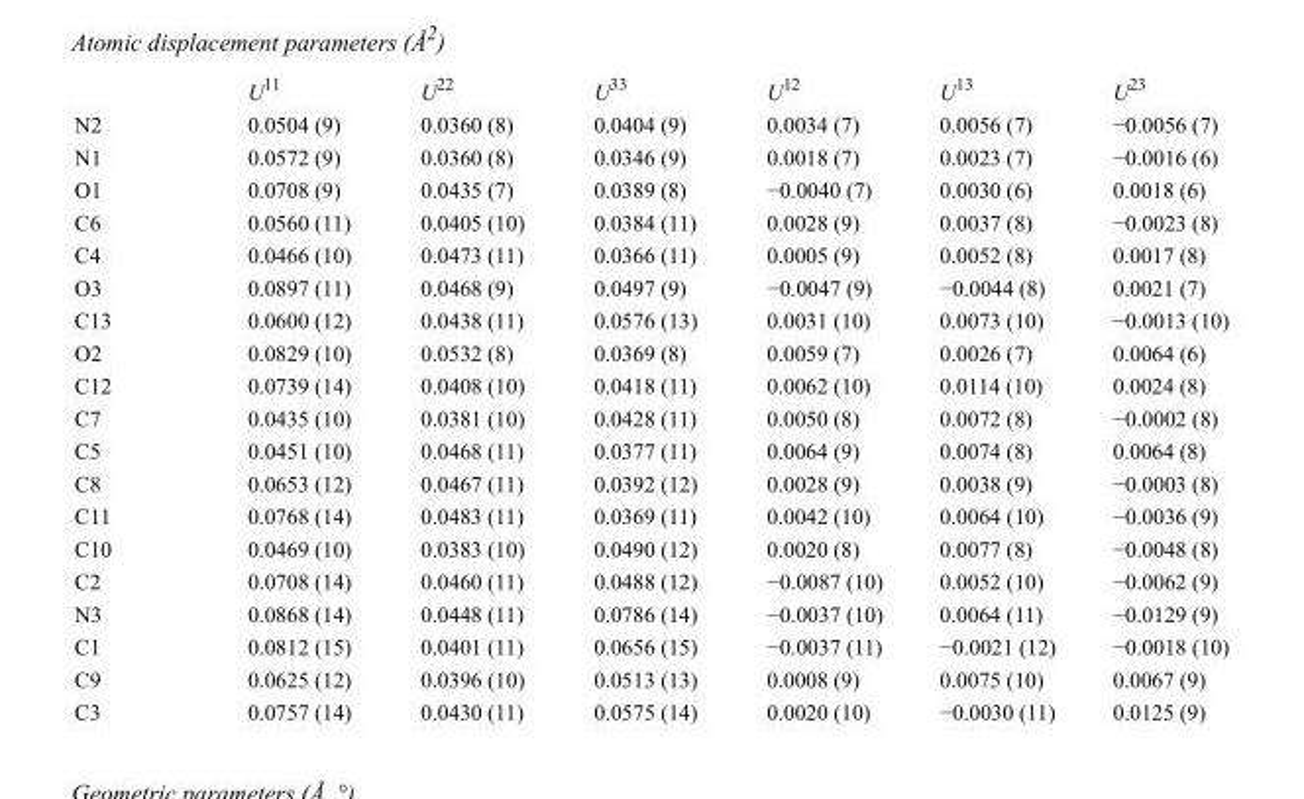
<table><thead><tr><td></td><td>U<sup>11</sup></td><td>U<sup>22</sup></td><td>U<sup>33</sup></td><td>U<sup>12</sup></td><td>U<sup>13</sup></td><td>U<sup>23</sup></td></tr></thead><tbody><tr><td>N2</td><td>0.0504 (9)</td><td>0.0360 (8)</td><td>0.0404 (9)</td><td>0.0034 (7)</td><td>0.0056 (7)</td><td>−0.0056 (7)</td></tr><tr><td>N1</td><td>0.0572 (9)</td><td>0.0360 (8)</td><td>0.0346 (9)</td><td>0.0018 (7)</td><td>0.0023 (7)</td><td>−0.0016 (6)</td></tr><tr><td>O1</td><td>0.0708 (9)</td><td>0.0435 (7)</td><td>0.0389 (8)</td><td>−0.0040 (7)</td><td>0.0030 (6)</td><td>0.0018 (6)</td></tr><tr><td>C6</td><td>0.0560 (11)</td><td>0.0405 (10)</td><td>0.0384 (11)</td><td>0.0028 (9)</td><td>0.0037 (8)</td><td>−0.0023 (8)</td></tr><tr><td>C4</td><td>0.0466 (10)</td><td>0.0473 (11)</td><td>0.0366 (11)</td><td>0.0005 (9)</td><td>0.0052 (8)</td><td>0.0017 (8)</td></tr><tr><td>O3</td><td>0.0897 (11)</td><td>0.0468 (9)</td><td>0.0497 (9)</td><td>−0.0047 (9)</td><td>−0.0044 (8)</td><td>0.0021 (7)</td></tr><tr><td>C13</td><td>0.0600 (12)</td><td>0.0438 (11)</td><td>0.0576 (13)</td><td>0.0031 (10)</td><td>0.0073 (10)</td><td>−0.0013 (10)</td></tr><tr><td>O2</td><td>0.0829 (10)</td><td>0.0532 (8)</td><td>0.0369 (8)</td><td>0.0059 (7)</td><td>0.0026 (7)</td><td>0.0064 (6)</td></tr><tr><td>C12</td><td>0.0739 (14)</td><td>0.0408 (10)</td><td>0.0418 (11)</td><td>0.0062 (10)</td><td>0.0114 (10)</td><td>0.0024 (8)</td></tr><tr><td>C7</td><td>0.0435 (10)</td><td>0.0381 (10)</td><td>0.0428 (11)</td><td>0.0050 (8)</td><td>0.0072 (8)</td><td>−0.0002 (8)</td></tr><tr><td>C5</td><td>0.0451 (10)</td><td>0.0468 (11)</td><td>0.0377 (11)</td><td>0.0064 (9)</td><td>0.0074 (8)</td><td>0.0064 (8)</td></tr><tr><td>C8</td><td>0.0653 (12)</td><td>0.0467 (11)</td><td>0.0392 (12)</td><td>0.0028 (9)</td><td>0.0038 (9)</td><td>−0.0003 (8)</td></tr><tr><td>C11</td><td>0.0768 (14)</td><td>0.0483 (11)</td><td>0.0369 (11)</td><td>0.0042 (10)</td><td>0.0064 (10)</td><td>−0.0036 (9)</td></tr><tr><td>C10</td><td>0.0469 (10)</td><td>0.0383 (10)</td><td>0.0490 (12)</td><td>0.0020 (8)</td><td>0.0077 (8)</td><td>−0.0048 (8)</td></tr><tr><td>C2</td><td>0.0708 (14)</td><td>0.0460 (11)</td><td>0.0488 (12)</td><td>−0.0087 (10)</td><td>0.0052 (10)</td><td>−0.0062 (9)</td></tr><tr><td>N3</td><td>0.0868 (14)</td><td>0.0448 (11)</td><td>0.0786 (14)</td><td>−0.0037 (10)</td><td>0.0064 (11)</td><td>−0.0129 (9)</td></tr><tr><td>C1</td><td>0.0812 (15)</td><td>0.0401 (11)</td><td>0.0656 (15)</td><td>−0.0037 (11)</td><td>−0.0021 (12)</td><td>−0.0018 (10)</td></tr><tr><td>C9</td><td>0.0625 (12)</td><td>0.0396 (10)</td><td>0.0513 (13)</td><td>0.0008 (9)</td><td>0.0075 (10)</td><td>0.0067 (9)</td></tr><tr><td>C3</td><td>0.0757 (14)</td><td>0.0430 (11)</td><td>0.0575 (14)</td><td>0.0020 (10)</td><td>−0.0030 (11)</td><td>0.0125 (9)</td></tr></tbody></table>